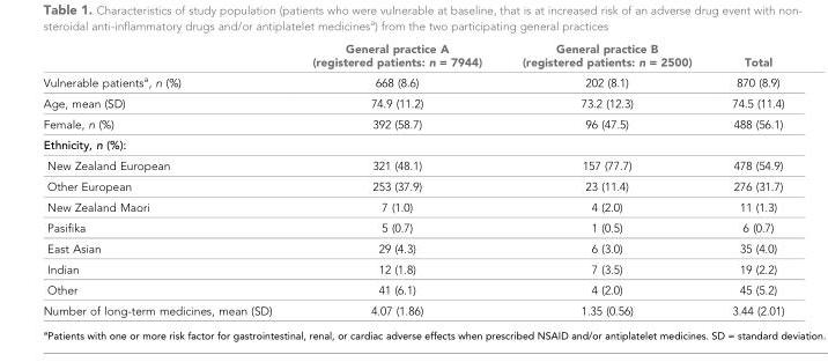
<table><thead><tr><td></td><td>General practice A (registered patients: n = 7944)</td><td>General practice B (registered patients: n = 2500)</td><td>Total</td></tr></thead><tbody><tr><td>Vulnerable patients<sup>a</sup>, n (%)</td><td>668 (8.6)</td><td>202 (8.1)</td><td>870 (8.9)</td></tr><tr><td>Age, mean (SD)</td><td>74.9 (11.2)</td><td>73.2 (12.3)</td><td>74.5 (11.4)</td></tr><tr><td>Female, n (%)</td><td>392 (58.7)</td><td>96 (47.5)</td><td>488 (56.1)</td></tr><tr><td colspan="4">Ethnicity, n (%):</td></tr><tr><td>New Zealand European</td><td>321 (48.1)</td><td>157 (77.7)</td><td>478 (54.9)</td></tr><tr><td>Other European</td><td>253 (37.9)</td><td>23 (11.4)</td><td>276 (31.7)</td></tr><tr><td>New Zealand Maori</td><td>7 (1.0)</td><td>4 (2.0)</td><td>11 (1.3)</td></tr><tr><td>Pasifika</td><td>5 (0.7)</td><td>1 (0.5)</td><td>6 (0.7)</td></tr><tr><td>East Asian</td><td>29 (4.3)</td><td>6 (3.0)</td><td>35 (4.0)</td></tr><tr><td>Indian</td><td>12 (1.8)</td><td>7 (3.5)</td><td>19 (2.2)</td></tr><tr><td>Other</td><td>41 (6.1)</td><td>4 (2.0)</td><td>45 (5.2)</td></tr><tr><td>Number of long-term medicines, mean (SD)</td><td>4.07 (1.86)</td><td>1.35 (0.56)</td><td>3.44 (2.01)</td></tr></tbody></table>